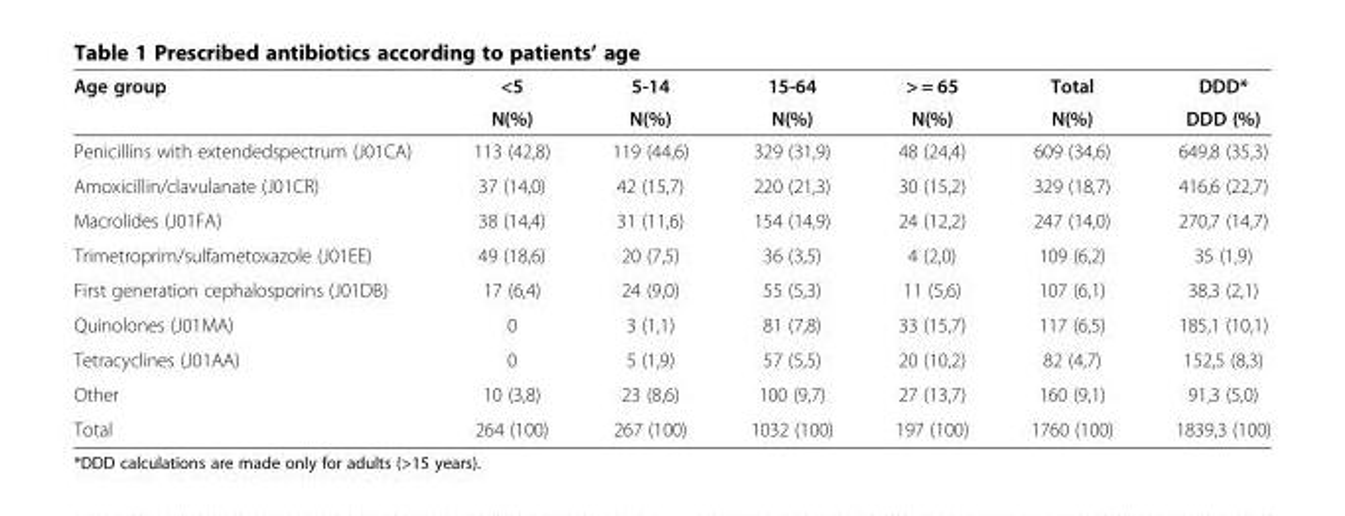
<table><thead><tr><td rowspan="2">Age group</td><td rowspan="2">&lt;5 N(%)</td><td rowspan="2">5-14 N(%)</td><td rowspan="2">15-64 N(%)</td><td rowspan="2">&gt; = 65 N(%)</td><td rowspan="2">Total N(%)</td><td rowspan="2">DDD* DDD (%)</td></tr><tr></tr></thead><tbody><tr><td>Penicillins with extendedspectrum (J01CA)</td><td>113 (42,8)</td><td>119 (44,6)</td><td>329 (31,9)</td><td>48 (24,4)</td><td>609 (34,6)</td><td>649,8 (35,3)</td></tr><tr><td>Amoxicillin/clavulanate (J01CR)</td><td>37 (14,0)</td><td>42 (15,7)</td><td>220 (21,3)</td><td>30 (15,2)</td><td>329 (18,7)</td><td>416,6 (22,7)</td></tr><tr><td>Macrolides (J01FA)</td><td>38 (14,4)</td><td>31 (11,6)</td><td>154 (14,9)</td><td>24 (12,2)</td><td>247 (14,0)</td><td>270,7 (14,7)</td></tr><tr><td>Trimetroprim/sulfametoxazole (J01EE)</td><td>49 (18,6)</td><td>20 (7,5)</td><td>36 (3,5)</td><td>4 (2,0)</td><td>109 (6,2)</td><td>35 (1,9)</td></tr><tr><td>First generation cephalosporins (J01DB)</td><td>17 (6,4)</td><td>24 (9,0)</td><td>55 (5,3)</td><td>11 (5,6)</td><td>107 (6,1)</td><td>38,3 (2,1)</td></tr><tr><td>Quinolones (J01MA)</td><td>0</td><td>3 (1,1)</td><td>81 (7,8)</td><td>33 (15,7)</td><td>117 (6,5)</td><td>185,1 (10,1)</td></tr><tr><td>Tetracyclines (J01AA)</td><td>0</td><td>5 (1,9)</td><td>57 (5,5)</td><td>20 (10,2)</td><td>82 (4,7)</td><td>152,5 (8,3)</td></tr><tr><td>Other</td><td>10 (3,8)</td><td>23 (8,6)</td><td>100 (9,7)</td><td>27 (13,7)</td><td>160 (9,1)</td><td>91,3 (5,0)</td></tr><tr><td>Total</td><td>264 (100)</td><td>267 (100)</td><td>1032 (100)</td><td>197 (100)</td><td>1760 (100)</td><td>1839,3 (100)</td></tr></tbody></table>